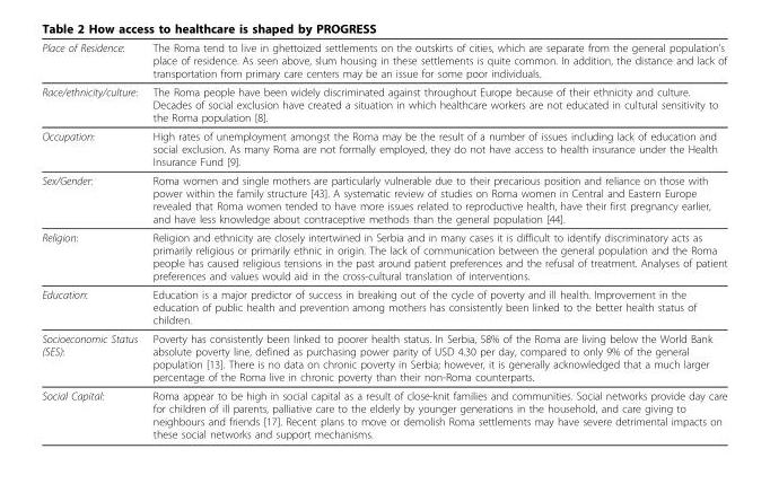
<table><thead><tr><td>Place of Residence:</td><td>The Roma tend to live in ghettoized settlements on the outskirts of cities, which are separate from the general population’s place of residence. As seen above, slum housing in these settlements is quite common. In addition, the distance and lack of transportation from primary care centers may be an issue for some poor individuals.</td></tr></thead><tbody><tr><td>Race/ethnicity/culture:</td><td>The Roma people have been widely discriminated against throughout Europe because of their ethnicity and culture. Decades of social exclusion have created a situation in which healthcare workers are not educated in cultural sensitivity to the Roma population [8].</td></tr><tr><td>Occupation:</td><td>High rates of unemployment amongst the Roma may be the result of a number of issues including lack of education and social exclusion. As many Roma are not formally employed, they do not have access to health insurance under the Health Insurance Fund [9].</td></tr><tr><td>Sex/Gender:</td><td>Roma women and single mothers are particularly vulnerable due to their precarious position and reliance on those with power within the family structure [43]. A systematic review of studies on Roma women in Central and Eastern Europe revealed that Roma women tended to have more issues related to reproductive health, have their first pregnancy earlier, and have less knowledge about contraceptive methods than the general population [44].</td></tr><tr><td>Religion:</td><td>Religion and ethnicity are closely intertwined in Serbia and in many cases it is difficult to identify discriminatory acts as primarily religious or primarily ethnic in origin. The lack of communication between the general population and the Roma people has caused religious tensions in the past around patient preferences and the refusal of treatment. Analyses of patient preferences and values would aid in the cross-cultural translation of interventions.</td></tr><tr><td>Education:</td><td>Education is a major predictor of success in breaking out of the cycle of poverty and ill health. Improvement in the education of public health and prevention among mothers has consistently been linked to the better health status of children.</td></tr><tr><td>Socioeconomic Status (SES):</td><td>Poverty has consistently been linked to poorer health status. In Serbia, 58% of the Roma are living below the World Bank absolute poverty line, defined as purchasing power parity of USD 4.30 per day, compared to only 9% of the general population [13]. There is no data on chronic poverty in Serbia; however, it is generally acknowledged that a much larger percentage of the Roma live in chronic poverty than their non-Roma counterparts.</td></tr><tr><td>Social Capital:</td><td>Roma appear to be high in social capital as a result of close-knit families and communities. Social networks provide day care for children of ill parents, palliative care to the elderly by younger generations in the household, and care giving to neighbours and friends [17]. Recent plans to move or demolish Roma settlements may have severe detrimental impacts on these social networks and support mechanisms.</td></tr></tbody></table>